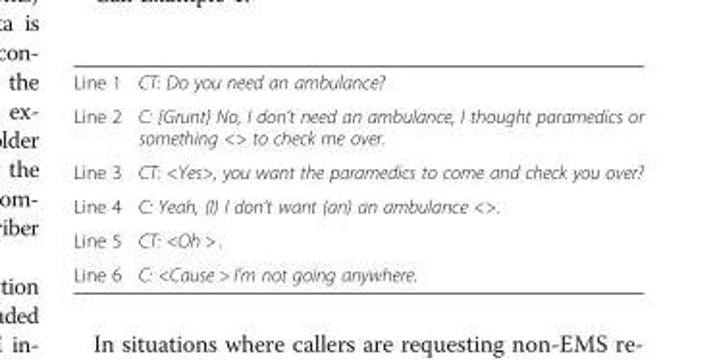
<table><tbody><tr><td>Line 1</td><td>CT: Do you need an ambulance?</td></tr><tr><td>Line 2</td><td>C: {Grunt} No, I don’t need an ambulance, I thought paramedics or something &lt;&gt; to check me over.</td></tr><tr><td>Line 3</td><td>CT: &lt;Yes&gt;, you want the paramedics to come and check you over?</td></tr><tr><td>Line 4</td><td>C: Yeah, (I) I don’t want (an) an ambulance &lt;&gt;.</td></tr><tr><td>Line 5</td><td>CT: &lt;Oh &gt; .</td></tr><tr><td>Line 6</td><td>C: &lt;Cause &gt; I’m not going anywhere.</td></tr></tbody></table>